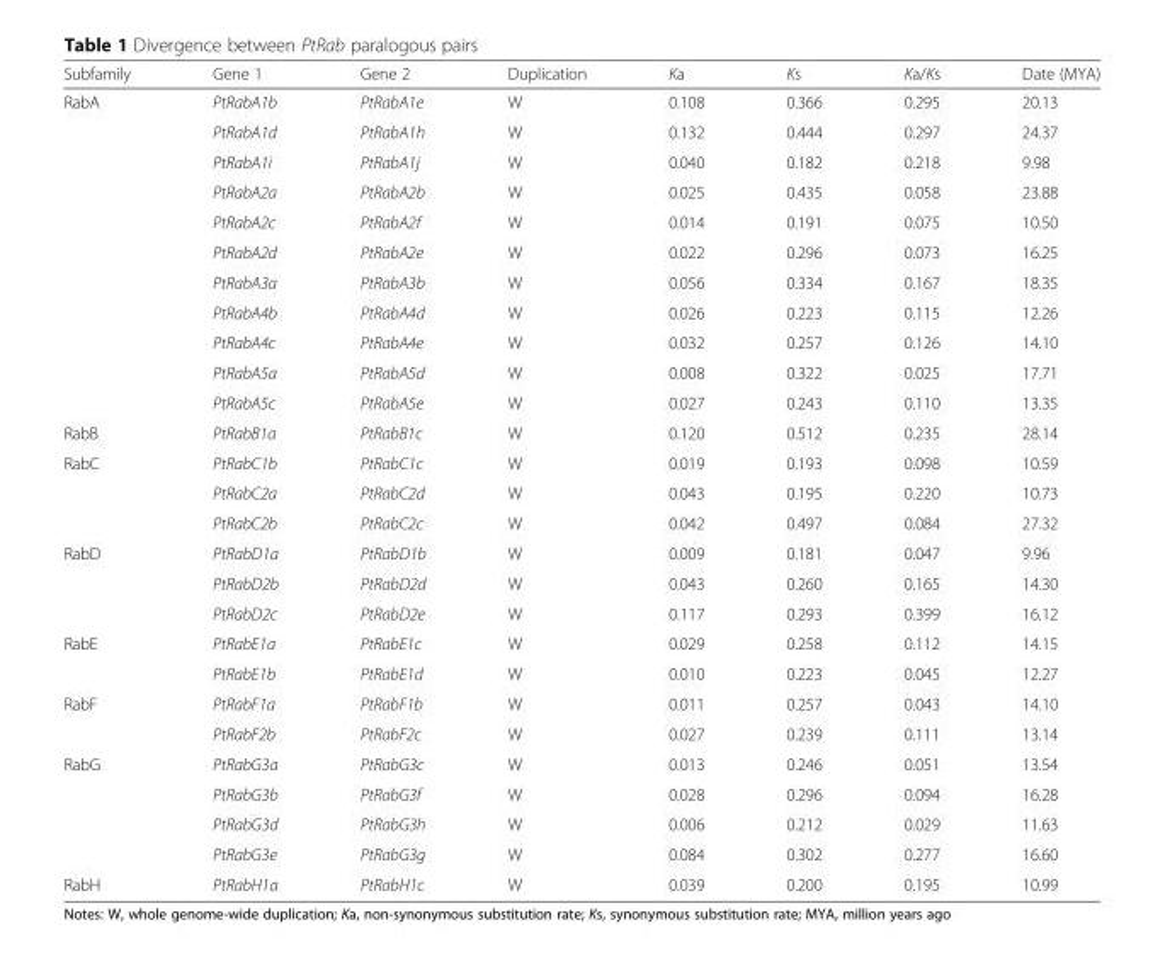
<table><thead><tr><td>Subfamily</td><td>Gene 1</td><td>Gene 2</td><td>Duplication</td><td>Ka</td><td>Ks</td><td>Ka/Ks</td><td>Date (MYA)</td></tr></thead><tbody><tr><td rowspan="11">RabA</td><td>PtRabA1b</td><td>PtRabA1e</td><td>W</td><td>0.108</td><td>0.366</td><td>0.295</td><td>20.13</td></tr><tr><td>PtRabA1d</td><td>PtRabA1h</td><td>W</td><td>0.132</td><td>0.444</td><td>0.297</td><td>24.37</td></tr><tr><td>PtRabA1i</td><td>PtRabA1j</td><td>W</td><td>0.040</td><td>0.182</td><td>0.218</td><td>9.98</td></tr><tr><td>PtRabA2a</td><td>PtRabA2b</td><td>W</td><td>0.025</td><td>0.435</td><td>0.058</td><td>23.88</td></tr><tr><td>PtRabA2c</td><td>PtRabA2f</td><td>W</td><td>0.014</td><td>0.191</td><td>0.075</td><td>10.50</td></tr><tr><td>PtRabA2d</td><td>PtRabA2e</td><td>W</td><td>0.022</td><td>0.296</td><td>0.073</td><td>16.25</td></tr><tr><td>PtRabA3a</td><td>PtRabA3b</td><td>W</td><td>0.056</td><td>0.334</td><td>0.167</td><td>18.35</td></tr><tr><td>PtRabA4b</td><td>PtRabA4d</td><td>W</td><td>0.026</td><td>0.223</td><td>0.115</td><td>12.26</td></tr><tr><td>PtRabA4c</td><td>PtRabA4e</td><td>W</td><td>0.032</td><td>0.257</td><td>0.126</td><td>14.10</td></tr><tr><td>PtRabA5a</td><td>PtRabA5d</td><td>W</td><td>0.008</td><td>0.322</td><td>0.025</td><td>17.71</td></tr><tr><td>PtRabA5c</td><td>PtRabA5e</td><td>W</td><td>0.027</td><td>0.243</td><td>0.110</td><td>13.35</td></tr><tr><td>RabB</td><td>PtRabB1a</td><td>PtRabB1c</td><td>W</td><td>0.120</td><td>0.512</td><td>0.235</td><td>28.14</td></tr><tr><td rowspan="3">RabC</td><td>PtRabC1b</td><td>PtRabC1c</td><td>W</td><td>0.019</td><td>0.193</td><td>0.098</td><td>10.59</td></tr><tr><td>PtRabC2a</td><td>PtRabC2d</td><td>W</td><td>0.043</td><td>0.195</td><td>0.220</td><td>10.73</td></tr><tr><td>PtRabC2b</td><td>PtRabC2c</td><td>W</td><td>0.042</td><td>0.497</td><td>0.084</td><td>27.32</td></tr><tr><td rowspan="3">RabD</td><td>PtRabD1a</td><td>PtRabD1b</td><td>W</td><td>0.009</td><td>0.181</td><td>0.047</td><td>9.96</td></tr><tr><td>PtRabD2b</td><td>PtRabD2d</td><td>W</td><td>0.043</td><td>0.260</td><td>0.165</td><td>14.30</td></tr><tr><td>PtRabD2c</td><td>PtRabD2e</td><td>W</td><td>0.117</td><td>0.293</td><td>0.399</td><td>16.12</td></tr><tr><td rowspan="2">RabE</td><td>PtRabE1a</td><td>PtRabE1c</td><td>W</td><td>0.029</td><td>0.258</td><td>0.112</td><td>14.15</td></tr><tr><td>PtRabE1b</td><td>PtRabE1d</td><td>W</td><td>0.010</td><td>0.223</td><td>0.045</td><td>12.27</td></tr><tr><td rowspan="2">RabF</td><td>PtRabF1a</td><td>PtRabF1b</td><td>W</td><td>0.011</td><td>0.257</td><td>0.043</td><td>14.10</td></tr><tr><td>PtRabF2b</td><td>PtRabF2c</td><td>W</td><td>0.027</td><td>0.239</td><td>0.111</td><td>13.14</td></tr><tr><td rowspan="4">RabG</td><td>PtRabG3a</td><td>PtRabG3c</td><td>W</td><td>0.013</td><td>0.246</td><td>0.051</td><td>13.54</td></tr><tr><td>PtRabG3b</td><td>PtRabG3f</td><td>W</td><td>0.028</td><td>0.296</td><td>0.094</td><td>16.28</td></tr><tr><td>PtRabG3d</td><td>PtRabG3h</td><td>W</td><td>0.006</td><td>0.212</td><td>0.029</td><td>11.63</td></tr><tr><td>PtRabG3e</td><td>PtRabG3g</td><td>W</td><td>0.084</td><td>0.302</td><td>0.277</td><td>16.60</td></tr><tr><td>RabH</td><td>PtRabH1a</td><td>PtRabH1c</td><td>W</td><td>0.039</td><td>0.200</td><td>0.195</td><td>10.99</td></tr></tbody></table>